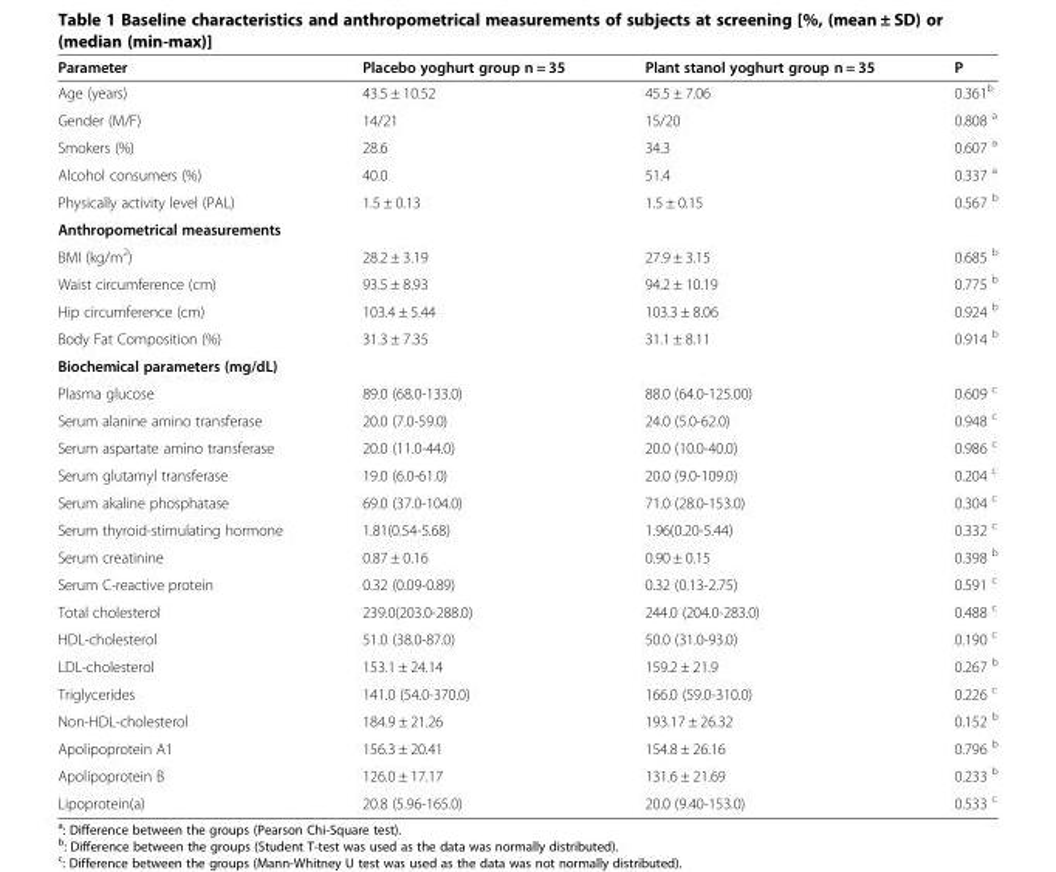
<table><thead><tr><td>Parameter</td><td>Placebo yoghurt group n = 35</td><td>Plant stanol yoghurt group n = 35</td><td>P</td></tr></thead><tbody><tr><td>Age (years)</td><td>43.5 ± 10.52</td><td>45.5 ± 7.06</td><td>0.361<sup>b</sup></td></tr><tr><td>Gender (M/F)</td><td>14/21</td><td>15/20</td><td>0.808 <sup>a</sup></td></tr><tr><td>Smokers (%)</td><td>28.6</td><td>34.3</td><td>0.607 <sup>a</sup></td></tr><tr><td>Alcohol consumers (%)</td><td>40.0</td><td>51.4</td><td>0.337 <sup>a</sup></td></tr><tr><td>Physically activity level (PAL)</td><td>1.5 ± 0.13</td><td>1.5 ± 0.15</td><td>0.567 <sup>b</sup></td></tr><tr><td colspan="4">Anthropometrical measurements</td></tr><tr><td>BMI (kg/m<sup>2</sup>)</td><td>28.2 ± 3.19</td><td>27.9 ± 3.15</td><td>0.685 <sup>b</sup></td></tr><tr><td>Waist circumference (cm)</td><td>93.5 ± 8.93</td><td>94.2 ± 10.19</td><td>0.775 <sup>b</sup></td></tr><tr><td>Hip circumference (cm)</td><td>103.4 ± 5.44</td><td>103.3 ± 8.06</td><td>0.924 <sup>b</sup></td></tr><tr><td>Body Fat Composition (%)</td><td>31.3 ± 7.35</td><td>31.1 ± 8.11</td><td>0.914 <sup>b</sup></td></tr><tr><td colspan="4">Biochemical parameters (mg/dL)</td></tr><tr><td>Plasma glucose</td><td>89.0 (68.0-133.0)</td><td>88.0 (64.0-125.00)</td><td>0.609 <sup>c</sup></td></tr><tr><td>Serum alanine amino transferase</td><td>20.0 (7.0-59.0)</td><td>24.0 (5.0-62.0)</td><td>0.948 <sup>c</sup></td></tr><tr><td>Serum aspartate amino transferase</td><td>20.0 (11.0-44.0)</td><td>20.0 (10.0-40.0)</td><td>0.986 <sup>c</sup></td></tr><tr><td>Serum glutamyl transferase</td><td>19.0 (6.0-61.0)</td><td>20.0 (9.0-109.0)</td><td>0.204 <sup>c</sup></td></tr><tr><td>Serum akaline phosphatase</td><td>69.0 (37.0-104.0)</td><td>71.0 (28.0-153.0)</td><td>0.304 <sup>c</sup></td></tr><tr><td>Serum thyroid-stimulating hormone</td><td>1.81(0.54-5.68)</td><td>1.96(0.20-5.44)</td><td>0.332 <sup>c</sup></td></tr><tr><td>Serum creatinine</td><td>0.87 ± 0.16</td><td>0.90 ± 0.15</td><td>0.398 <sup>b</sup></td></tr><tr><td>Serum C-reactive protein</td><td>0.32 (0.09-0.89)</td><td>0.32 (0.13-2.75)</td><td>0.591 <sup>c</sup></td></tr><tr><td>Total cholesterol</td><td>239.0(203.0-288.0)</td><td>244.0 (204.0-283.0)</td><td>0.488 <sup>c</sup></td></tr><tr><td>HDL-cholesterol</td><td>51.0 (38.0-87.0)</td><td>50.0 (31.0-93.0)</td><td>0.190 <sup>c</sup></td></tr><tr><td>LDL-cholesterol</td><td>153.1 ± 24.14</td><td>159.2 ± 21.9</td><td>0.267 <sup>b</sup></td></tr><tr><td>Triglycerides</td><td>141.0 (54.0-370.0)</td><td>166.0 (59.0-310.0)</td><td>0.226 <sup>c</sup></td></tr><tr><td>Non-HDL-cholesterol</td><td>184.9 ± 21.26</td><td>193.17 ± 26.32</td><td>0.152 <sup>b</sup></td></tr><tr><td>Apolipoprotein A1</td><td>156.3 ± 20.41</td><td>154.8 ± 26.16</td><td>0.796 <sup>b</sup></td></tr><tr><td>Apolipoprotein B</td><td>126.0 ± 17.17</td><td>131.6 ± 21.69</td><td>0.233 <sup>b</sup></td></tr><tr><td>Lipoprotein(a)</td><td>20.8 (5.96-165.0)</td><td>20.0 (9.40-153.0)</td><td>0.533 <sup>c</sup></td></tr></tbody></table>